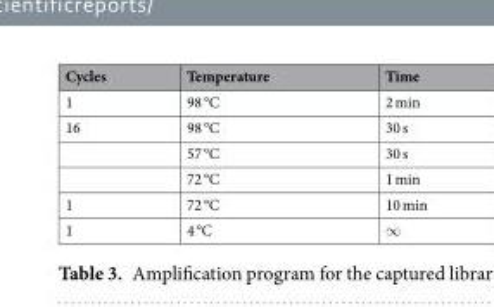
<table><thead><tr><td>Cycles</td><td>Temperature</td><td>Time</td></tr></thead><tbody><tr><td>1</td><td>98 °C</td><td>2 min</td></tr><tr><td rowspan="3">16</td><td>98 °C</td><td>30 s</td></tr><tr><td>57 °C</td><td>30 s</td></tr><tr><td>72 °C</td><td>1 min</td></tr><tr><td>1</td><td>72 °C</td><td>10 min</td></tr><tr><td>1</td><td>4 °C</td><td>∞</td></tr></tbody></table>